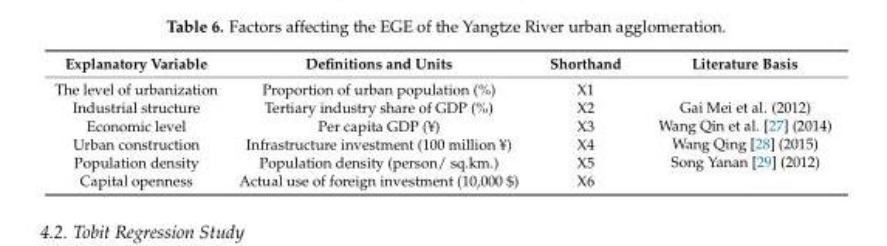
<table><thead><tr><td>Explanatory Variable</td><td>Definitions and Units</td><td>Shorthand</td><td>Literature Basis</td></tr></thead><tbody><tr><td>The level of urbanization</td><td>Proportion of urban population (%)</td><td>X1</td><td rowspan="6">Gai Mei et al. (2012) Wang Qin et al. [27] (2014) Wang Qing [28] (2015) Song Yanan [29] (2012)</td></tr><tr><td>Industrial structure</td><td>Tertiary industry share of GDP (%)</td><td>X2</td></tr><tr><td>Economic level</td><td>Per capita GDP (¥)</td><td>X3</td></tr><tr><td>Urban construction</td><td>Infrastructure investment (100 million ¥)</td><td>X4</td></tr><tr><td>Population density</td><td>Population density (person/ sq.km.)</td><td>X5</td></tr><tr><td>Capital openness</td><td>Actual use of foreign investment (10,000 $)</td><td>X6</td></tr></tbody></table>